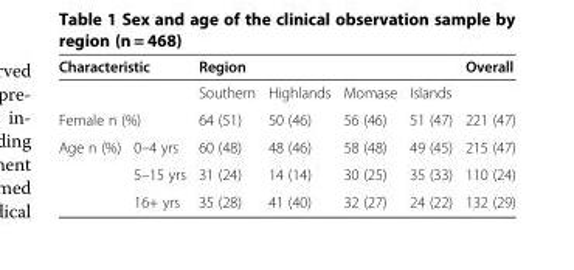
<table><thead><tr><td colspan="2">Characteristic</td><td colspan="4">Region</td><td rowspan="2">Overall</td></tr><tr><td></td><td></td><td>Southern</td><td>Highlands</td><td>Momase</td><td>Islands</td></tr></thead><tbody><tr><td colspan="2">Female n (%)</td><td>64 (51)</td><td>50 (46)</td><td>56 (46)</td><td>51 (47)</td><td>221 (47)</td></tr><tr><td rowspan="3">Age n (%)</td><td>0–4 yrs</td><td>60 (48)</td><td>48 (46)</td><td>58 (48)</td><td>49 (45)</td><td>215 (47)</td></tr><tr><td>5–15 yrs</td><td>31 (24)</td><td>14 (14)</td><td>30 (25)</td><td>35 (33)</td><td>110 (24)</td></tr><tr><td>16+ yrs</td><td>35 (28)</td><td>41 (40)</td><td>32 (27)</td><td>24 (22)</td><td>132 (29)</td></tr></tbody></table>